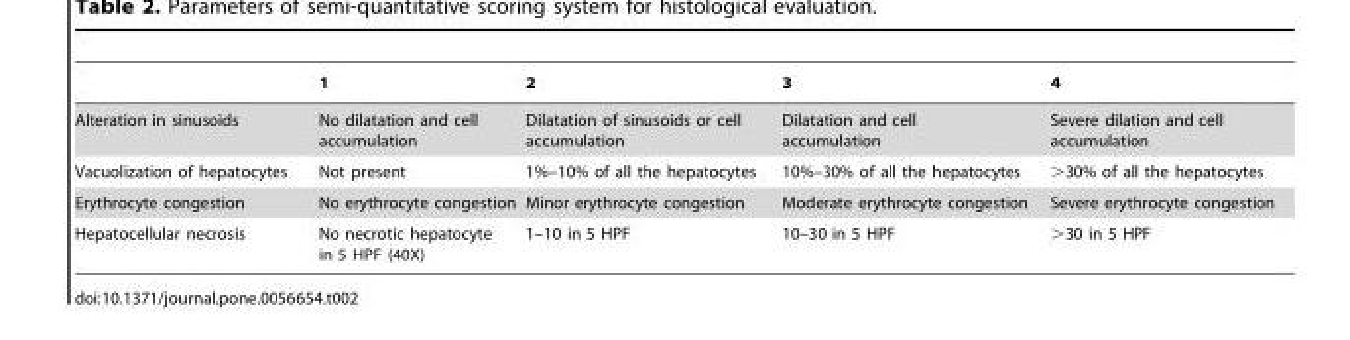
<table><thead><tr><td></td><td>1</td><td>2</td><td>3</td><td>4</td></tr></thead><tbody><tr><td>Alteration in sinusoids</td><td>No dilatation and cell accumulation</td><td>Dilatation of sinusoids or cell accumulation</td><td>Dilatation and cell accumulation</td><td>Severe dilation and cell accumulation</td></tr><tr><td>Vacuolization of hepatocytes</td><td>Not present</td><td>1%–10% of all the hepatocytes</td><td>10%–30% of all the hepatocytes</td><td>&gt;30% of all the hepatocytes</td></tr><tr><td>Erythrocyte congestion</td><td>No erythrocyte congestion</td><td>Minor erythrocyte congestion</td><td>Moderate erythrocyte congestion</td><td>Severe erythrocyte congestion</td></tr><tr><td>Hepatocellular necrosis</td><td>No necrotic hepatocyte in 5 HPF (40X)</td><td>1–10 in 5 HPF</td><td>10–30 in 5 HPF</td><td>&gt;30 in 5 HPF</td></tr></tbody></table>